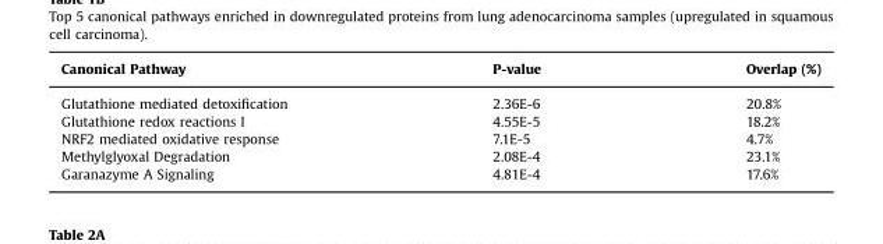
<table><thead><tr><td>Canonical Pathway</td><td>P-value</td><td>Overlap (%)</td></tr></thead><tbody><tr><td>Glutathione mediated detoxification</td><td>2.36E-6</td><td>20.8%</td></tr><tr><td>Glutathione redox reactions I</td><td>4.55E-5</td><td>18.2%</td></tr><tr><td>NRF2 mediated oxidative response</td><td>7.1E-5</td><td>4.7%</td></tr><tr><td>Methylglyoxal Degradation</td><td>2.08E-4</td><td>23.1%</td></tr><tr><td>Garanazyme A Signaling</td><td>4.81E-4</td><td>17.6%</td></tr></tbody></table>